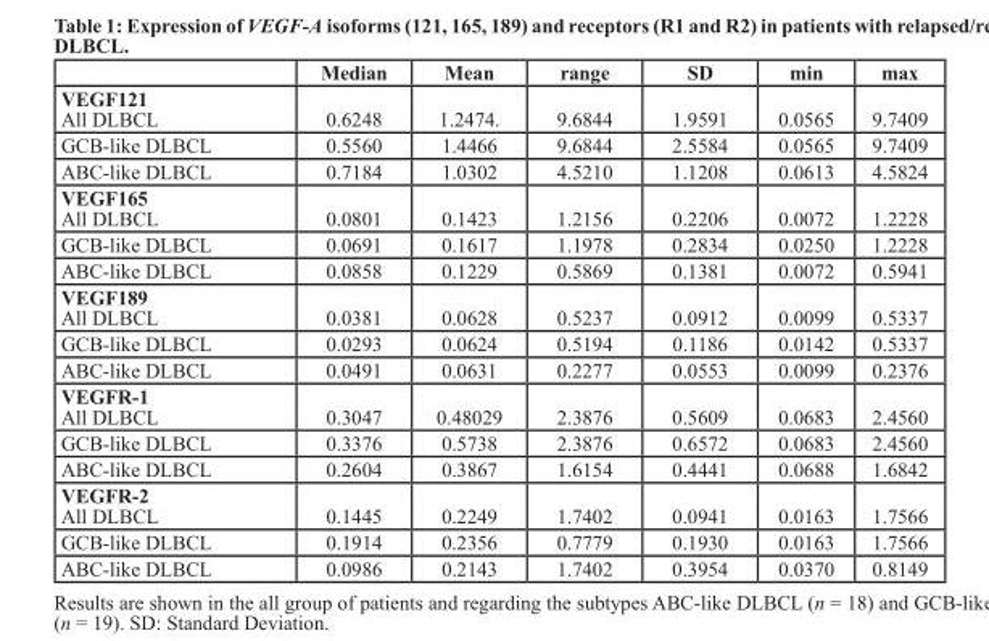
<table><thead><tr><td></td><td>Median</td><td>Mean</td><td>range</td><td>SD</td><td>min</td><td>max</td></tr></thead><tbody><tr><td>VEGF121 All DLBCL</td><td>0.6248</td><td>1.2474.</td><td>9.6844</td><td>1.9591</td><td>0.0565</td><td>9.7409</td></tr><tr><td>GCB-like DLBCL</td><td>0.5560</td><td>1.4466</td><td>9.6844</td><td>2.5584</td><td>0.0565</td><td>9.7409</td></tr><tr><td>ABC-like DLBCL</td><td>0.7184</td><td>1.0302</td><td>4.5210</td><td>1.1208</td><td>0.0613</td><td>4.5824</td></tr><tr><td>VEGF165 All DLBCL</td><td>0.0801</td><td>0.1423</td><td>1.2156</td><td>0.2206</td><td>0.0072</td><td>1.2228</td></tr><tr><td>GCB-like DLBCL</td><td>0.0691</td><td>0.1617</td><td>1.1978</td><td>0.2834</td><td>0.0250</td><td>1.2228</td></tr><tr><td>ABC-like DLBCL</td><td>0.0858</td><td>0.1229</td><td>0.5869</td><td>0.1381</td><td>0.0072</td><td>0.5941</td></tr><tr><td>VEGF189 All DLBCL</td><td>0.0381</td><td>0.0628</td><td>0.5237</td><td>0.0912</td><td>0.0099</td><td>0.5337</td></tr><tr><td>GCB-like DLBCL</td><td>0.0293</td><td>0.0624</td><td>0.5194</td><td>0.1186</td><td>0.0142</td><td>0.5337</td></tr><tr><td>ABC-like DLBCL</td><td>0.0491</td><td>0.0631</td><td>0.2277</td><td>0.0553</td><td>0.0099</td><td>0.2376</td></tr><tr><td>VEGFR-1 All DLBCL</td><td>0.3047</td><td>0.48029</td><td>2.3876</td><td>0.5609</td><td>0.0683</td><td>2.4560</td></tr><tr><td>GCB-like DLBCL</td><td>0.3376</td><td>0.5738</td><td>2.3876</td><td>0.6572</td><td>0.0683</td><td>2.4560</td></tr><tr><td>ABC-like DLBCL</td><td>0.2604</td><td>0.3867</td><td>1.6154</td><td>0.4441</td><td>0.0688</td><td>1.6842</td></tr><tr><td>VEGFR-2 All DLBCL</td><td>0.1445</td><td>0.2249</td><td>1.7402</td><td>0.0941</td><td>0.0163</td><td>1.7566</td></tr><tr><td>GCB-like DLBCL</td><td>0.1914</td><td>0.2356</td><td>0.7779</td><td>0.1930</td><td>0.0163</td><td>1.7566</td></tr><tr><td>ABC-like DLBCL</td><td>0.0986</td><td>0.2143</td><td>1.7402</td><td>0.3954</td><td>0.0370</td><td>0.8149</td></tr></tbody></table>